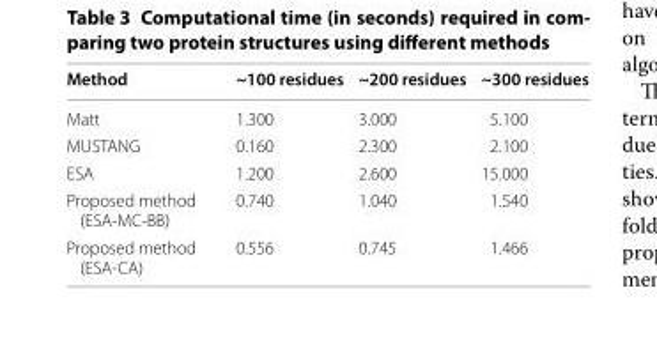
<table><thead><tr><td>Method</td><td>~100 residues</td><td>~200 residues</td><td>~300 residues</td></tr></thead><tbody><tr><td>Matt</td><td>1.300</td><td>3.000</td><td>5.100</td></tr><tr><td>MUSTANG</td><td>0.160</td><td>2.300</td><td>2.100</td></tr><tr><td>ESA</td><td>1.200</td><td>2.600</td><td>15.000</td></tr><tr><td>Proposed method (ESA-MC-BB)</td><td>0.740</td><td>1.040</td><td>1.540</td></tr><tr><td>Proposed method (ESA-CA)</td><td>0.556</td><td>0.745</td><td>1.466</td></tr></tbody></table>